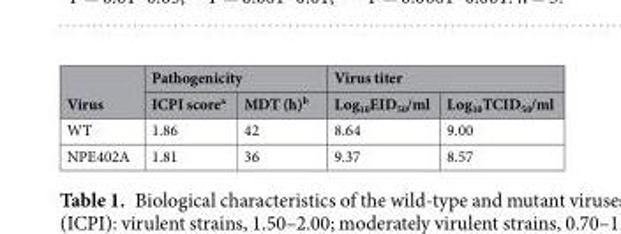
<table><thead><tr><td rowspan="2">Virus</td><td colspan="2">Pathogenicity</td><td colspan="2">Virus titer</td></tr><tr><td>ICPI score<sup>a</sup></td><td>MDT (h)<sup>b</sup></td><td>Log<sub>10</sub>EID<sub>50</sub>/ml</td><td>Log<sub>10</sub>TCID<sub>50</sub>/ml</td></tr></thead><tbody><tr><td>WT</td><td>1.86</td><td>42</td><td>8.64</td><td>9.00</td></tr><tr><td>NPE402A</td><td>1.81</td><td>36</td><td>9.37</td><td>8.57</td></tr></tbody></table>